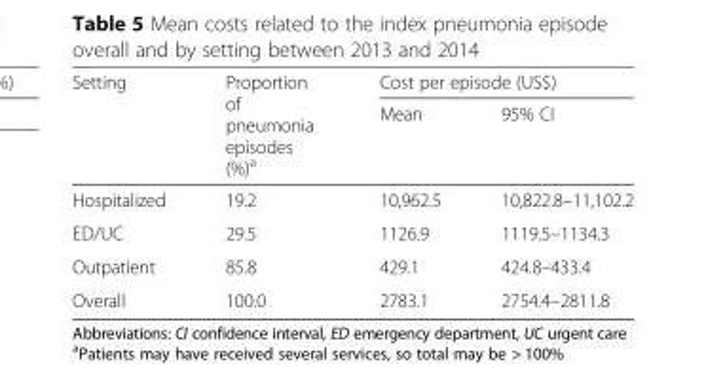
<table><thead><tr><td rowspan="2">Setting</td><td rowspan="2">Proportion of pneumonia episodes (%)<sup>a</sup></td><td colspan="2">Cost per episode (US$)</td></tr><tr><td>Mean</td><td>95% CI</td></tr></thead><tbody><tr><td>Hospitalized</td><td>19.2</td><td>10,962.5</td><td>10,822.8–11,102.2</td></tr><tr><td>ED/UC</td><td>29.5</td><td>1126.9</td><td>1119.5–1134.3</td></tr><tr><td>Outpatient</td><td>85.8</td><td>429.1</td><td>424.8–433.4</td></tr><tr><td>Overall</td><td>100.0</td><td>2783.1</td><td>2754.4–2811.8</td></tr></tbody></table>